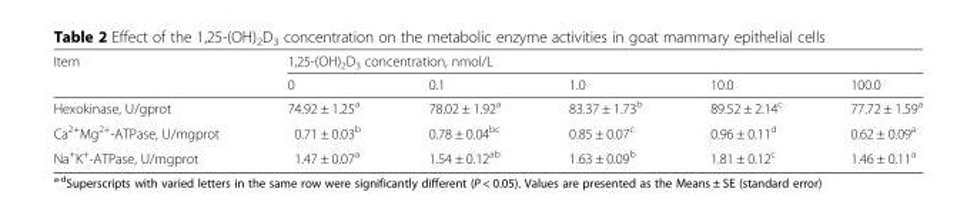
<table><thead><tr><td rowspan="2">Item</td><td colspan="5">1,25-(OH)<sub>2</sub>D<sub>3</sub> concentration, nmol/L</td></tr><tr><td>0</td><td>0.1</td><td>1.0</td><td>10.0</td><td>100.0</td></tr></thead><tbody><tr><td>Hexokinase, U/gprot</td><td>74.92 ± 1.25<sup>a</sup></td><td>78.02 ± 1.92<sup>a</sup></td><td>83.37 ± 1.73<sup>b</sup></td><td>89.52 ± 2.14<sup>c</sup></td><td>77.72 ± 1.59<sup>a</sup></td></tr><tr><td>Ca<sup>2+</sup>Mg<sup>2+</sup>-ATPase, U/mgprot</td><td>0.71 ± 0.03<sup>b</sup></td><td>0.78 ± 0.04<sup>bc</sup></td><td>0.85 ± 0.07<sup>c</sup></td><td>0.96 ± 0.11<sup>d</sup></td><td>0.62 ± 0.09<sup>a</sup></td></tr><tr><td>Na<sup>+</sup>K<sup>+</sup>-ATPase, U/mgprot</td><td>1.47 ± 0.07<sup>a</sup></td><td>1.54 ± 0.12<sup>ab</sup></td><td>1.63 ± 0.09<sup>b</sup></td><td>1.81 ± 0.12<sup>c</sup></td><td>1.46 ± 0.11<sup>a</sup></td></tr></tbody></table>